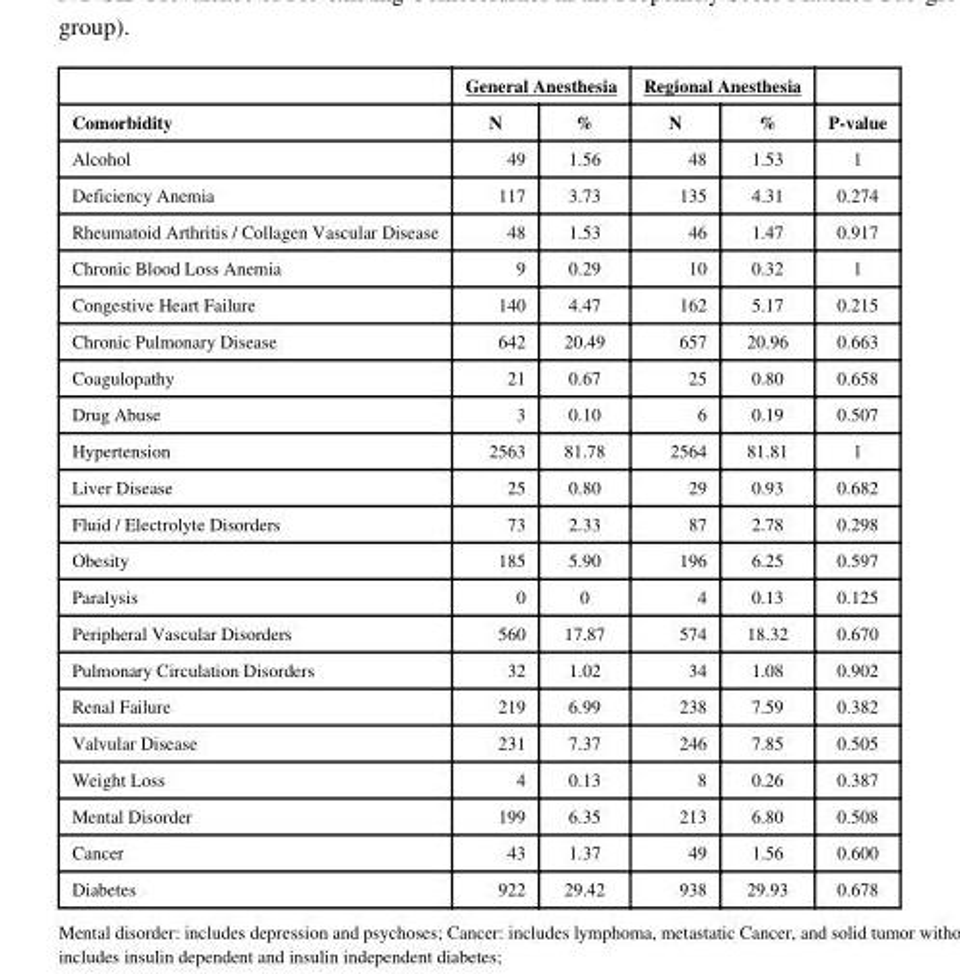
<table><thead><tr><td rowspan="2">Comorbidity</td><td colspan="2">General Anesthesia</td><td colspan="2">Regional Anesthesia</td><td rowspan="2">P-value</td></tr><tr><td>N</td><td>%</td><td>N</td><td>%</td></tr></thead><tbody><tr><td>Alcohol</td><td>49</td><td>1.56</td><td>48</td><td>1.53</td><td>1</td></tr><tr><td>Deficiency Anemia</td><td>117</td><td>3.73</td><td>135</td><td>4.31</td><td>0.274</td></tr><tr><td>Rheumatoid Arthritis / Collagen Vascular Disease</td><td>48</td><td>1.53</td><td>46</td><td>1.47</td><td>0.917</td></tr><tr><td>Chronic Blood Loss Anemia</td><td>9</td><td>0.29</td><td>10</td><td>0.32</td><td>1</td></tr><tr><td>Congestive Heart Failure</td><td>140</td><td>4.47</td><td>162</td><td>5.17</td><td>0.215</td></tr><tr><td>Chronic Pulmonary Disease</td><td>642</td><td>20.49</td><td>657</td><td>20.96</td><td>0.663</td></tr><tr><td>Coagulopathy</td><td>21</td><td>0.67</td><td>25</td><td>0.80</td><td>0.658</td></tr><tr><td>Drug Abuse</td><td>3</td><td>0.10</td><td>6</td><td>0.19</td><td>0.507</td></tr><tr><td>Hypertension</td><td>2563</td><td>81.78</td><td>2564</td><td>81.81</td><td>1</td></tr><tr><td>Liver Disease</td><td>25</td><td>0.80</td><td>29</td><td>0.93</td><td>0.682</td></tr><tr><td>Fluid / Electrolyte Disorders</td><td>73</td><td>2.33</td><td>87</td><td>2.78</td><td>0.298</td></tr><tr><td>Obesity</td><td>185</td><td>5.90</td><td>196</td><td>6.25</td><td>0.597</td></tr><tr><td>Paralysis</td><td>0</td><td>0</td><td>4</td><td>0.13</td><td>0.125</td></tr><tr><td>Peripheral Vascular Disorders</td><td>560</td><td>17.87</td><td>574</td><td>18.32</td><td>0.670</td></tr><tr><td>Pulmonary Circulation Disorders</td><td>32</td><td>1.02</td><td>34</td><td>1.08</td><td>0.902</td></tr><tr><td>Renal Failure</td><td>219</td><td>6.99</td><td>238</td><td>7.59</td><td>0.382</td></tr><tr><td>Valvular Disease</td><td>231</td><td>7.37</td><td>246</td><td>7.85</td><td>0.505</td></tr><tr><td>Weight Loss</td><td>4</td><td>0.13</td><td>8</td><td>0.26</td><td>0.387</td></tr><tr><td>Mental Disorder</td><td>199</td><td>6.35</td><td>213</td><td>6.80</td><td>0.508</td></tr><tr><td>Cancer</td><td>43</td><td>1.37</td><td>49</td><td>1.56</td><td>0.600</td></tr><tr><td>Diabetes</td><td>922</td><td>29.42</td><td>938</td><td>29.93</td><td>0.678</td></tr></tbody></table>